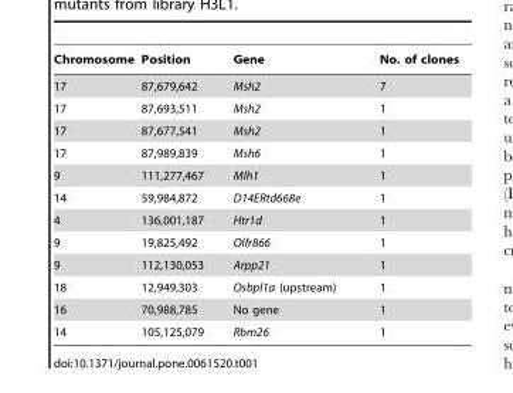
<table><thead><tr><td>Chromosome</td><td>Position</td><td>Gene</td><td>No. of clones</td></tr></thead><tbody><tr><td>17</td><td>87,679,642</td><td>Msh2</td><td>7</td></tr><tr><td>17</td><td>87,693,511</td><td>Msh2</td><td>1</td></tr><tr><td>17</td><td>87,677,541</td><td>Msh2</td><td>1</td></tr><tr><td>17</td><td>87,989,839</td><td>Msh6</td><td>1</td></tr><tr><td>9</td><td>111,277,467</td><td>Mlh1</td><td>1</td></tr><tr><td>14</td><td>59,984,872</td><td>D14ERtd668e</td><td>1</td></tr><tr><td>4</td><td>136,001,187</td><td>Htr1d</td><td>1</td></tr><tr><td>9</td><td>19,825,492</td><td>Olfr866</td><td>1</td></tr><tr><td>9</td><td>112,130,053</td><td>Arpp21</td><td>1</td></tr><tr><td>18</td><td>12,949,303</td><td>Osbpl1a (upstream)</td><td>1</td></tr><tr><td>16</td><td>70,988,785</td><td>No gene</td><td>1</td></tr><tr><td>14</td><td>105,125,079</td><td>Rbm26</td><td>1</td></tr></tbody></table>